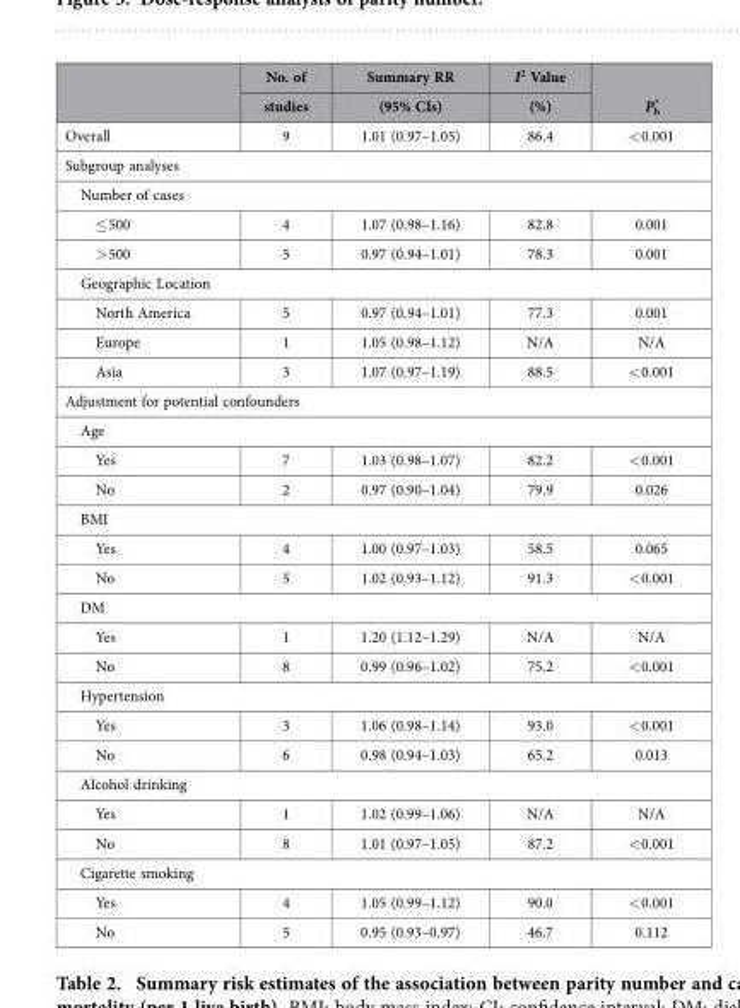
<table><thead><tr><td rowspan="2"></td><td rowspan="2">No. of studies</td><td rowspan="2">Summary RR (95% CIs)</td><td rowspan="2">I<sup>2</sup> Value (%)</td><td rowspan="2">P<sub>h</sub> *</td></tr><tr></tr></thead><tbody><tr><td>Overall</td><td>9</td><td>1.01 (0.97–1.05)</td><td>86.4</td><td>&lt; 0.001</td></tr><tr><td colspan="5">Subgroup analyses</td></tr><tr><td colspan="5">Number of cases</td></tr><tr><td>≤ 500</td><td>4</td><td>1.07 (0.98–1.16)</td><td>82.8</td><td>0.001</td></tr><tr><td>&gt; 500</td><td>5</td><td>0.97 (0.94–1.01)</td><td>78.3</td><td>0.001</td></tr><tr><td colspan="5">Geographic Location</td></tr><tr><td>North America</td><td>5</td><td>0.97 (0.94–1.01)</td><td>77.3</td><td>0.001</td></tr><tr><td>Europe</td><td>1</td><td>1.05 (0.98–1.12)</td><td>N/A</td><td>N/A</td></tr><tr><td>Asia</td><td>3</td><td>1.07 (0.97–1.19)</td><td>88.5</td><td>&lt; 0.001</td></tr><tr><td colspan="5">Adjustment for potential confounders</td></tr><tr><td colspan="5">Age</td></tr><tr><td>Yes</td><td>7</td><td>1.03 (0.98–1.07)</td><td>82.2</td><td>&lt; 0.001</td></tr><tr><td>No</td><td>2</td><td>0.97 (0.90–1.04)</td><td>79.9</td><td>0.026</td></tr><tr><td colspan="5">BMI</td></tr><tr><td>Yes</td><td>4</td><td>1.00 (0.97–1.03)</td><td>58.5</td><td>0.065</td></tr><tr><td>No</td><td>5</td><td>1.02 (0.93–1.12)</td><td>91.3</td><td>&lt; 0.001</td></tr><tr><td colspan="5">DM</td></tr><tr><td>Yes</td><td>1</td><td>1.20 (1.12–1.29)</td><td>N/A</td><td>N/A</td></tr><tr><td>No</td><td>8</td><td>0.99 (0.96–1.02)</td><td>75.2</td><td>&lt; 0.001</td></tr><tr><td colspan="5">Hypertension</td></tr><tr><td>Yes</td><td>3</td><td>1.06 (0.98–1.14)</td><td>93.0</td><td>&lt; 0.001</td></tr><tr><td>No</td><td>6</td><td>0.98 (0.94–1.03)</td><td>65.2</td><td>0.013</td></tr><tr><td colspan="5">Alcohol drinking</td></tr><tr><td>Yes</td><td>1</td><td>1.02 (0.99–1.06)</td><td>N/A</td><td>N/A</td></tr><tr><td>No</td><td>8</td><td>1.01 (0.97–1.05)</td><td>87.2</td><td>&lt; 0.001</td></tr><tr><td colspan="5">Cigarette smoking</td></tr><tr><td>Yes</td><td>4</td><td>1.05 (0.99–1.12)</td><td>90.0</td><td>&lt; 0.001</td></tr><tr><td>No</td><td>5</td><td>0.95 (0.93–0.97)</td><td>46.7</td><td>0.112</td></tr></tbody></table>